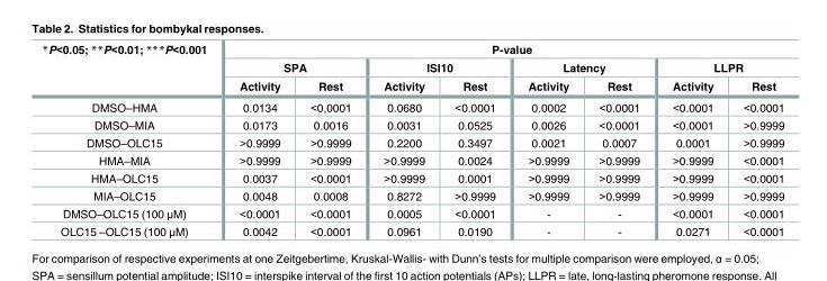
<table><thead><tr><td rowspan="3">*P&lt;0.05; **P&lt;0.01; ***P&lt;0.001</td><td colspan="8">P-value</td></tr><tr><td colspan="2">SPA</td><td colspan="2">ISI10</td><td colspan="2">Latency</td><td colspan="2">LLPR</td></tr><tr><td>Activity</td><td>Rest</td><td>Activity</td><td>Rest</td><td>Activity</td><td>Rest</td><td>Activity</td><td>Rest</td></tr></thead><tbody><tr><td>DMSO–HMA</td><td>0.0134</td><td>&lt;0,0001</td><td>0.0680</td><td>&lt;0.0001</td><td>0.0002</td><td>&lt;0.0001</td><td>&lt;0.0001</td><td>&lt;0.0001</td></tr><tr><td>DMSO–MIA</td><td>0.0173</td><td>0.0016</td><td>0.0031</td><td>0.0525</td><td>0.0026</td><td>&lt;0.0001</td><td>&lt;0.0001</td><td>&gt;0.9999</td></tr><tr><td>DMSO–OLC15</td><td>&gt;0.9999</td><td>&gt;0.9999</td><td>0.2200</td><td>0.3497</td><td>0.0021</td><td>0.0007</td><td>0.0001</td><td>&gt;0.9999</td></tr><tr><td>HMA–MIA</td><td>&gt;0.9999</td><td>&gt;0.9999</td><td>&gt;0.9999</td><td>0.0024</td><td>&gt;0.9999</td><td>&gt;0.9999</td><td>&gt;0.9999</td><td>&lt;0.0001</td></tr><tr><td>HMA–OLC15</td><td>0.0037</td><td>&lt;0.0001</td><td>&gt;0.9999</td><td>0.0001</td><td>&gt;0.9999</td><td>&gt;0.9999</td><td>&gt;0.9999</td><td>&lt;0.0001</td></tr><tr><td>MIA–OLC15</td><td>0.0048</td><td>0.0008</td><td>0.8272</td><td>&gt;0.9999</td><td>&gt;0.9999</td><td>&gt;0.9999</td><td>&gt;0.9999</td><td>&gt;0.9999</td></tr><tr><td>DMSO–OLC15 (100 μM)</td><td>&lt;0.0001</td><td>&lt;0.0001</td><td>0.0005</td><td>&lt;0.0001</td><td>-</td><td>-</td><td>&lt;0.0001</td><td>&lt;0.0001</td></tr><tr><td>OLC15 –OLC15 (100 μM)</td><td>0.0042</td><td>&lt;0.0001</td><td>0.0961</td><td>0.0190</td><td>-</td><td>-</td><td>0.0271</td><td>&lt;0.0001</td></tr></tbody></table>